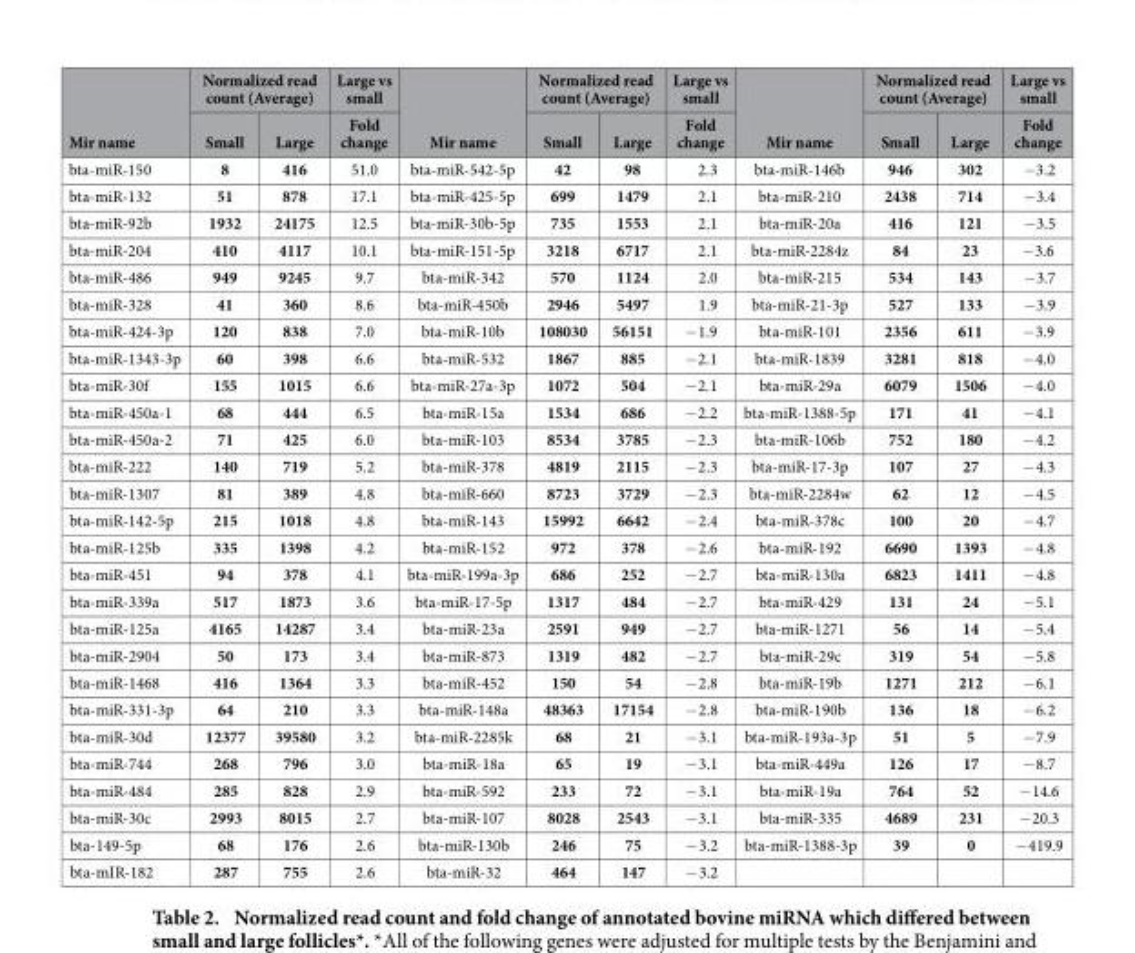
<table><thead><tr><td rowspan="2">Mir name</td><td colspan="2">Normalized read count (Average)</td><td rowspan="2">Large vs small Fold change</td><td rowspan="2">Mir name</td><td colspan="2">Normalized read count (Average)</td><td rowspan="2">Large vs small Fold change</td><td rowspan="2">Mir name</td><td colspan="2">Normalized read count (Average)</td><td rowspan="2">Large vs small Fold change</td></tr><tr><td>Small</td><td>Large</td><td>Small</td><td>Large</td><td>Small</td><td>Large</td></tr></thead><tbody><tr><td>bta-miR-150</td><td>8</td><td>416</td><td>51.0</td><td>bta-miR-542-5p</td><td>42</td><td>98</td><td>2.3</td><td>bta-miR-146b</td><td>946</td><td>302</td><td>−3.2</td></tr><tr><td>bta-miR-132</td><td>51</td><td>878</td><td>17.1</td><td>bta-miR-425-5p</td><td>699</td><td>1479</td><td>2.1</td><td>bta-miR-210</td><td>2438</td><td>714</td><td>−3.4</td></tr><tr><td>bta-miR-92b</td><td>1932</td><td>24175</td><td>12.5</td><td>bta-miR-30b-5p</td><td>735</td><td>1553</td><td>2.1</td><td>bta-miR-20a</td><td>416</td><td>121</td><td>−3.5</td></tr><tr><td>bta-miR-204</td><td>410</td><td>4117</td><td>10.1</td><td>bta-miR-151-5p</td><td>3218</td><td>6717</td><td>2.1</td><td>bta-miR-2284z</td><td>84</td><td>23</td><td>−3.6</td></tr><tr><td>bta-miR-486</td><td>949</td><td>9245</td><td>9.7</td><td>bta-miR-342</td><td>570</td><td>1124</td><td>2.0</td><td>bta-miR-215</td><td>534</td><td>143</td><td>−3.7</td></tr><tr><td>bta-miR-328</td><td>41</td><td>360</td><td>8.6</td><td>bta-miR-450b</td><td>2946</td><td>5497</td><td>1.9</td><td>bta-miR-21-3p</td><td>527</td><td>133</td><td>−3.9</td></tr><tr><td>bta-miR-424-3p</td><td>120</td><td>838</td><td>7.0</td><td>bta-miR-10b</td><td>108030</td><td>56151</td><td>− 1.9</td><td>bta-miR-101</td><td>2356</td><td>611</td><td>− 3.9</td></tr><tr><td>bta-miR-1343-3p</td><td>60</td><td>398</td><td>6.6</td><td>bta-miR-532</td><td>1867</td><td>885</td><td>− 2.1</td><td>bta-miR-1839</td><td>3281</td><td>818</td><td>− 4.0</td></tr><tr><td>bta-miR-30f</td><td>155</td><td>1015</td><td>6.6</td><td>bta-miR-27a-3p</td><td>1072</td><td>504</td><td>− 2.1</td><td>bta-miR-29a</td><td>6079</td><td>1506</td><td>− 4.0</td></tr><tr><td>bta-miR-450a-1</td><td>68</td><td>444</td><td>6.5</td><td>bta-miR-15a</td><td>1534</td><td>686</td><td>− 2.2</td><td>bta-miR-1388-5p</td><td>171</td><td>41</td><td>− 4.1</td></tr><tr><td>bta-miR-450a-2</td><td>71</td><td>425</td><td>6.0</td><td>bta-miR-103</td><td>8534</td><td>3785</td><td>− 2.3</td><td>bta-miR-106b</td><td>752</td><td>180</td><td>− 4.2</td></tr><tr><td>bta-miR-222</td><td>140</td><td>719</td><td>5.2</td><td>bta-miR-378</td><td>4819</td><td>2115</td><td>− 2.3</td><td>bta-miR-17-3p</td><td>107</td><td>27</td><td>− 4.3</td></tr><tr><td>bta-miR-1307</td><td>81</td><td>389</td><td>4.8</td><td>bta-miR-660</td><td>8723</td><td>3729</td><td>− 2.3</td><td>bta-miR-2284w</td><td>62</td><td>12</td><td>− 4.5</td></tr><tr><td>bta-miR-142-5p</td><td>215</td><td>1018</td><td>4.8</td><td>bta-miR-143</td><td>15992</td><td>6642</td><td>− 2.4</td><td>bta-miR-378c</td><td>100</td><td>20</td><td>− 4.7</td></tr><tr><td>bta-miR-125b</td><td>335</td><td>1398</td><td>4.2</td><td>bta-miR-152</td><td>972</td><td>378</td><td>− 2.6</td><td>bta-miR-192</td><td>6690</td><td>1393</td><td>− 4.8</td></tr><tr><td>bta-miR-451</td><td>94</td><td>378</td><td>4.1</td><td>bta-miR-199a-3p</td><td>686</td><td>252</td><td>− 2.7</td><td>bta-miR-130a</td><td>6823</td><td>1411</td><td>− 4.8</td></tr><tr><td>bta-miR-339a</td><td>517</td><td>1873</td><td>3.6</td><td>bta-miR-17-5p</td><td>1317</td><td>484</td><td>− 2.7</td><td>bta-miR-429</td><td>131</td><td>24</td><td>− 5.1</td></tr><tr><td>bta-miR-125a</td><td>4165</td><td>14287</td><td>3.4</td><td>bta-miR-23a</td><td>2591</td><td>949</td><td>− 2.7</td><td>bta-miR-1271</td><td>56</td><td>14</td><td>− 5.4</td></tr><tr><td>bta-miR-2904</td><td>50</td><td>173</td><td>3.4</td><td>bta-miR-873</td><td>1319</td><td>482</td><td>− 2.7</td><td>bta-miR-29c</td><td>319</td><td>54</td><td>− 5.8</td></tr><tr><td>bta-miR-1468</td><td>416</td><td>1364</td><td>3.3</td><td>bta-miR-452</td><td>150</td><td>54</td><td>− 2.8</td><td>bta-miR-19b</td><td>1271</td><td>212</td><td>− 6.1</td></tr><tr><td>bta-miR-331-3p</td><td>64</td><td>210</td><td>3.3</td><td>bta-miR-148a</td><td>48363</td><td>17154</td><td>− 2.8</td><td>bta-miR-190b</td><td>136</td><td>18</td><td>− 6.2</td></tr><tr><td>bta-miR-30d</td><td>12377</td><td>39580</td><td>3.2</td><td>bta-miR-2285k</td><td>68</td><td>21</td><td>− 3.1</td><td>bta-miR-193a-3p</td><td>51</td><td>5</td><td>− 7.9</td></tr><tr><td>bta-miR-744</td><td>268</td><td>796</td><td>3.0</td><td>bta-miR-18a</td><td>65</td><td>19</td><td>− 3.1</td><td>bta-miR-449a</td><td>126</td><td>17</td><td>− 8.7</td></tr><tr><td>bta-miR-484</td><td>285</td><td>828</td><td>2.9</td><td>bta-miR-592</td><td>233</td><td>72</td><td>− 3.1</td><td>bta-miR-19a</td><td>764</td><td>52</td><td>− 14.6</td></tr><tr><td>bta-miR-30c</td><td>2993</td><td>8015</td><td>2.7</td><td>bta-miR-107</td><td>8028</td><td>2543</td><td>− 3.1</td><td>bta-miR-335</td><td>4689</td><td>231</td><td>− 20.3</td></tr><tr><td>bta-149-5p</td><td>68</td><td>176</td><td>2.6</td><td>bta-miR-130b</td><td>246</td><td>75</td><td>− 3.2</td><td>bta-miR-1388-3p</td><td>39</td><td>0</td><td>− 419.9</td></tr><tr><td>bta-mIR-182</td><td>287</td><td>755</td><td>2.6</td><td>bta-miR-32</td><td>464</td><td>147</td><td>− 3.2</td><td></td><td></td><td></td><td></td></tr></tbody></table>